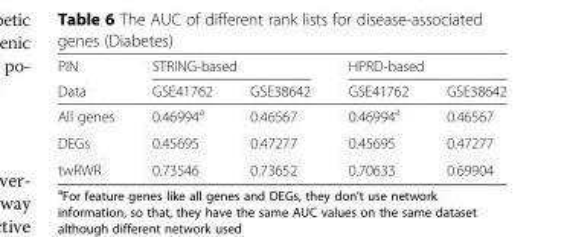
<table><thead><tr><td rowspan="2">PIN Data</td><td colspan="2">STRING-based</td><td colspan="2">HPRD-based</td></tr><tr><td>GSE41762</td><td>GSE38642</td><td>GSE41762</td><td>GSE38642</td></tr></thead><tbody><tr><td>All genes</td><td>0.46994<sup>a</sup></td><td>0.46567</td><td>0.46994<sup>a</sup></td><td>0.46567</td></tr><tr><td>DEGs</td><td>0.45695</td><td>0.47277</td><td>0.45695</td><td>0.47277</td></tr><tr><td>twRWR</td><td>0.73546</td><td>0.73652</td><td>0.70633</td><td>0.69904</td></tr></tbody></table>